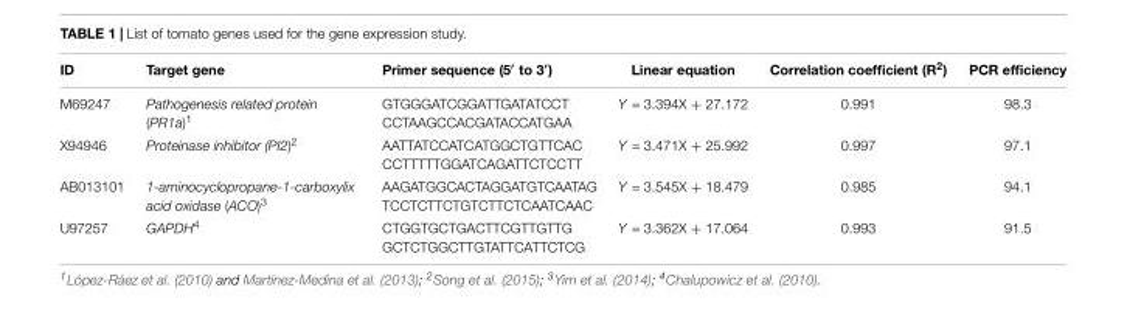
<table><thead><tr><td>ID</td><td>Target gene</td><td>Primer sequence (5′ to 3′)</td><td>Linear equation</td><td>Correlation coefficient (R<sup>2</sup>)</td><td>PCR efficiency</td></tr></thead><tbody><tr><td>M69247</td><td>Pathogenesis related protein (PR1a)<sup>1</sup></td><td>GTGGGATCGGATTGATATCCT CCTAAGCCACGATACCATGAA</td><td>Y = 3.394X + 27.172</td><td>0.991</td><td>98.3</td></tr><tr><td>X94946</td><td>Proteinase inhibitor (PI2)<sup>2</sup></td><td>AATTATCCATCATGGCTGTTCAC CCTTTTTGGATCAGATTCTCCTT</td><td>Y = 3.471X + 25.992</td><td>0.997</td><td>97.1</td></tr><tr><td>AB013101</td><td>1-aminocyclopropane-1-carboxylix acid oxidase (ACO)<sup>3</sup></td><td>AAGATGGCACTAGGATGTCAATAG TCCTCTTCTGTCTTCTCAATCAAC</td><td>Y = 3.545X + 18.479</td><td>0.985</td><td>94.1</td></tr><tr><td>U97257</td><td>GAPDH<sup>4</sup></td><td>CTGGTGCTGACTTCGTTGTTG GCTCTGGCTTGTATTCATTCTCG</td><td>Y = 3.362X + 17.064</td><td>0.993</td><td>91.5</td></tr></tbody></table>